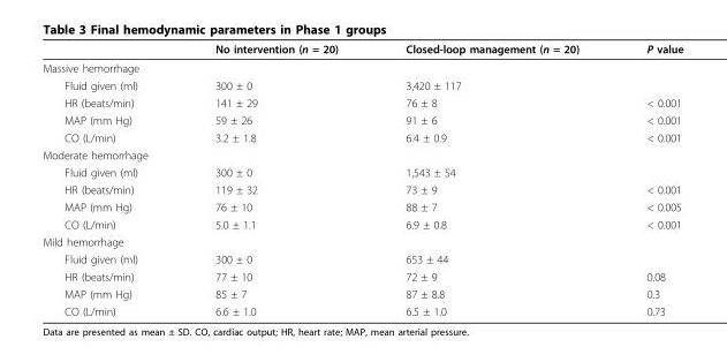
<table><thead><tr><td></td><td>No intervention (n = 20)</td><td>Closed-loop management (n = 20)</td><td>P value</td></tr></thead><tbody><tr><td colspan="4">Massive hemorrhage</td></tr><tr><td>Fluid given (ml)</td><td>300 ± 0</td><td>3,420 ± 117</td><td></td></tr><tr><td>HR (beats/min)</td><td>141 ± 29</td><td>76 ± 8</td><td>&lt; 0.001</td></tr><tr><td>MAP (mm Hg)</td><td>59 ± 26</td><td>91 ± 6</td><td>&lt; 0.001</td></tr><tr><td>CO (L/min)</td><td>3.2 ± 1.8</td><td>6.4 ± 0.9</td><td>&lt; 0.001</td></tr><tr><td colspan="4">Moderate hemorrhage</td></tr><tr><td>Fluid given (ml)</td><td>300 ± 0</td><td>1,543 ± 54</td><td></td></tr><tr><td>HR (beats/min)</td><td>119 ± 32</td><td>73 ± 9</td><td>&lt; 0.001</td></tr><tr><td>MAP (mm Hg)</td><td>76 ± 10</td><td>88 ± 7</td><td>&lt; 0.005</td></tr><tr><td>CO (L/min)</td><td>5.0 ± 1.1</td><td>6.9 ± 0.8</td><td>&lt; 0.001</td></tr><tr><td colspan="4">Mild hemorrhage</td></tr><tr><td>Fluid given (ml)</td><td>300 ± 0</td><td>653 ± 44</td><td></td></tr><tr><td>HR (beats/min)</td><td>77 ± 10</td><td>72 ± 9</td><td>0.08</td></tr><tr><td>MAP (mm Hg)</td><td>85 ± 7</td><td>87 ± 8.8</td><td>0.3</td></tr><tr><td>CO (L/min)</td><td>6.6 ± 1.0</td><td>6.5 ± 1.0</td><td>0.73</td></tr></tbody></table>